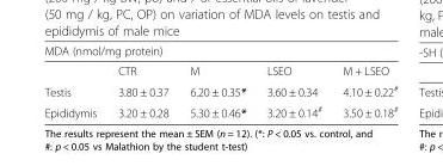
<table><thead><tr><td colspan="5">MDA (nmol/mg protein)</td></tr><tr><td></td><td>CTR</td><td>M</td><td>LSEO</td><td>M + LSEO</td></tr></thead><tbody><tr><td>Testis</td><td>3.80 ± 0.37</td><td>6.20 ± 0.35*</td><td>3.60 ± 0.34</td><td>4.10 ± 0.22<sup>#</sup></td></tr><tr><td>Epididymis</td><td>3.20 ± 0.28</td><td>5.30 ± 0.46*</td><td>3.20 ± 0.14<sup>#</sup></td><td>3.50 ± 0.18<sup>#</sup></td></tr></tbody></table>